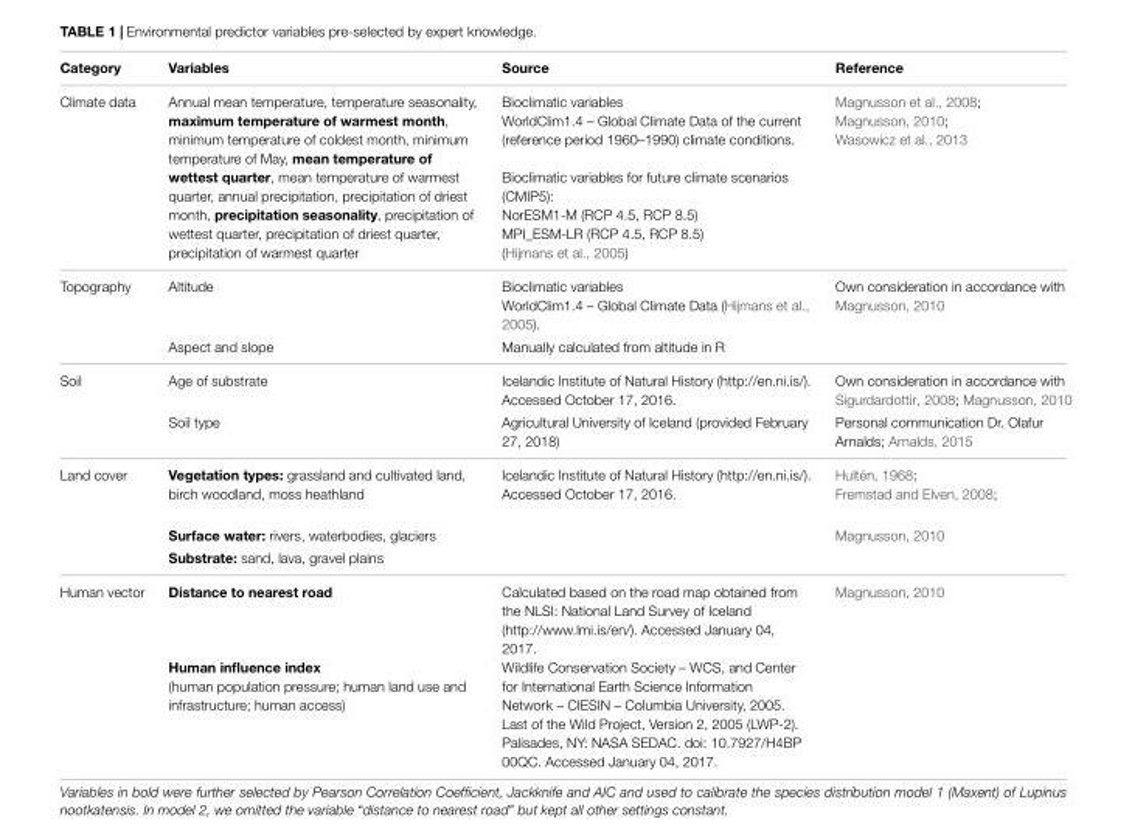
<table><thead><tr><td>Category</td><td>Variables</td><td>Source</td><td>Reference</td></tr></thead><tbody><tr><td>Climate data</td><td>Annual mean temperature, temperature seasonality, maximum temperature of warmest month, minimum temperature of coldest month, minimum temperature of May, mean temperature of wettest quarter, mean temperature of warmest quarter, annual precipitation, precipitation of driest month, precipitation seasonality, precipitation of wettest quarter, precipitation of driest quarter, precipitation of warmest quarter</td><td>Bioclimatic variables WorldClim1.4 – Global Climate Data of the current (reference period 1960–1990) climate conditions. Bioclimatic variables for future climate scenarios (CMIP5): NorESM1-M (RCP 4.5, RCP 8.5) MPI_ESM-LR (RCP 4.5, RCP 8.5) (Hijmans et al., 2005)</td><td>Magnusson et al., 2008; Magnusson, 2010; Wasowicz et al., 2013</td></tr><tr><td rowspan="2">Topography</td><td>Altitude</td><td>Bioclimatic variables WorldClim1.4 – Global Climate Data (Hijmans et al., 2005).</td><td>Own consideration in accordance with Magnusson, 2010</td></tr><tr><td>Aspect and slope</td><td>Manually calculated from altitude in R</td><td></td></tr><tr><td rowspan="2">Soil</td><td>Age of substrate</td><td>Icelandic Institute of Natural History (http://en.ni.is/). Accessed October 17, 2016.</td><td>Own consideration in accordance with Sigurdardottir, 2008; Magnusson, 2010</td></tr><tr><td>Soil type</td><td>Agricultural University of Iceland (provided February 27, 2018)</td><td>Personal communication Dr. Olafur Arnalds; Arnalds, 2015</td></tr><tr><td rowspan="3">Land cover</td><td>Vegetation types: grassland and cultivated land, birch woodland, moss heathland</td><td>Icelandic Institute of Natural History (http://en.ni.is/). Accessed October 17, 2016.</td><td>Hultén, 1968; Fremstad and Elven, 2008;</td></tr><tr><td>Surface water: rivers, waterbodies, glaciers</td><td></td><td>Magnusson, 2010</td></tr><tr><td>Substrate: sand, lava, gravel plains</td><td></td><td></td></tr><tr><td>Human vector</td><td>Distance to nearest road Human influence index (human population pressure; human land use and infrastructure; human access)</td><td>Calculated based on the road map obtained from the NLSI: National Land Survey of Iceland (http://www.lmi.is/en/). Accessed January 04, 2017. Wildlife Conservation Society – WCS, and Center for International Earth Science Information Network – CIESIN – Columbia University, 2005. Last of the Wild Project, Version 2, 2005 (LWP-2). Palisades, NY: NASA SEDAC. doi: 10.7927/H4BP 00QC. Accessed January 04, 2017.</td><td>Magnusson, 2010</td></tr></tbody></table>